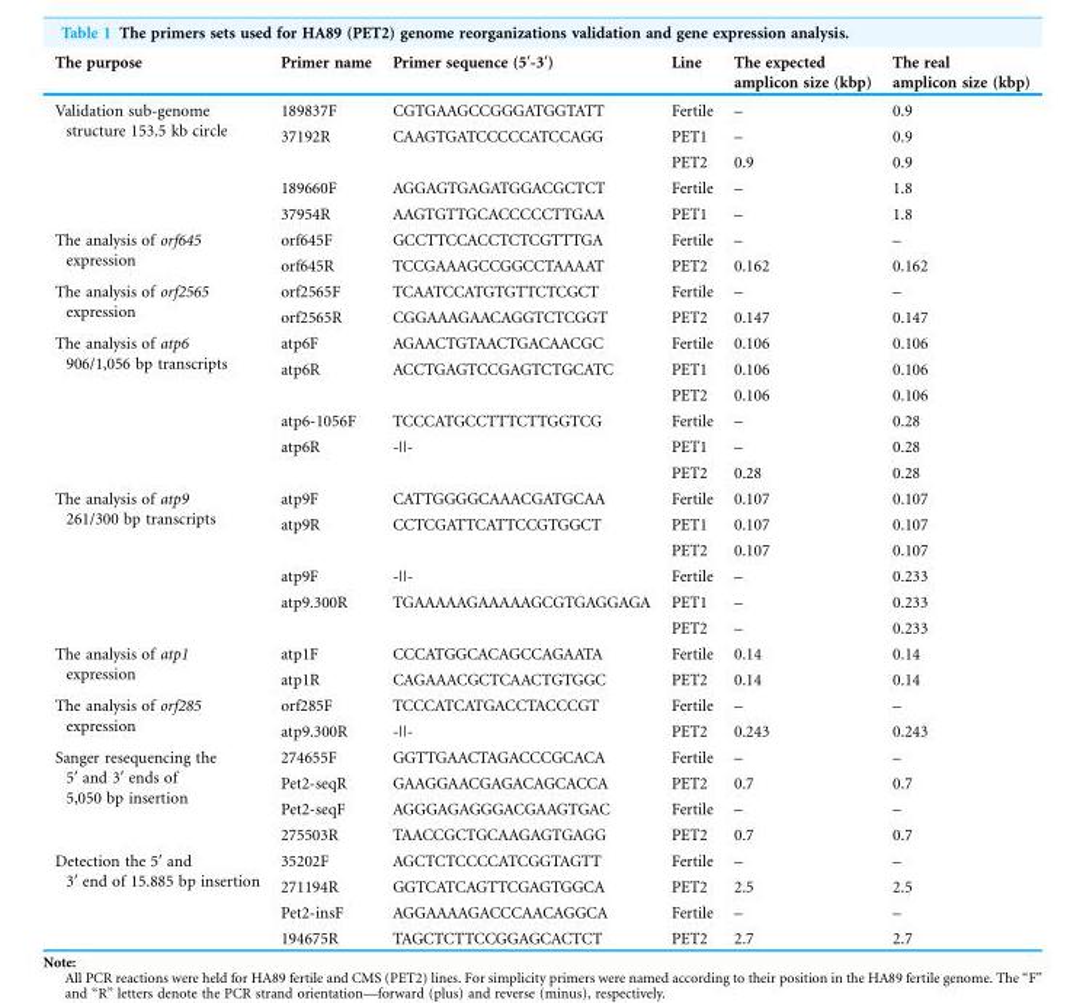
<table><thead><tr><td>The purpose</td><td>Primer name</td><td>Primer sequence (5′-3′)</td><td>Line</td><td>The expected amplicon size (kbp)</td><td>The real amplicon size (kbp)</td></tr></thead><tbody><tr><td rowspan="5">Validation sub-genome structure 153.5 kb circle</td><td>189837F</td><td>CGTGAAGCCGGGATGGTATT</td><td>Fertile</td><td>–</td><td>0.9</td></tr><tr><td>37192R</td><td>CAAGTGATCCCCCATCCAGG</td><td>PET1</td><td>–</td><td>0.9</td></tr><tr><td></td><td></td><td>PET2</td><td>0.9</td><td>0.9</td></tr><tr><td>189660F</td><td>AGGAGTGAGATGGACGCTCT</td><td>Fertile</td><td>–</td><td>1.8</td></tr><tr><td>37954R</td><td>AAGTGTTGCACCCCCTTGAA</td><td>PET1</td><td>–</td><td>1.8</td></tr><tr><td rowspan="2">The analysis of orf645 expression</td><td>orf645F</td><td>GCCTTCCACCTCTCGTTTGA</td><td>Fertile</td><td>–</td><td>–</td></tr><tr><td>orf645R</td><td>TCCGAAAGCCGGCCTAAAAT</td><td>PET2</td><td>0.162</td><td>0.162</td></tr><tr><td rowspan="2">The analysis of orf2565 expression</td><td>orf2565F</td><td>TCAATCCATGTGTTCTCGCT</td><td>Fertile</td><td>–</td><td>–</td></tr><tr><td>orf2565R</td><td>CGGAAAGAACAGGTCTCGGT</td><td>PET2</td><td>0.147</td><td>0.147</td></tr><tr><td rowspan="6">The analysis of atp6 906/1,056 bp transcripts</td><td>atp6F</td><td>AGAACTGTAACTGACAACGC</td><td>Fertile</td><td>0.106</td><td>0.106</td></tr><tr><td>atp6R</td><td>ACCTGAGTCCGAGTCTGCATC</td><td>PET1</td><td>0.106</td><td>0.106</td></tr><tr><td></td><td></td><td>PET2</td><td>0.106</td><td>0.106</td></tr><tr><td>atp6-1056F</td><td>TCCCATGCCTTTCTTGGTCG</td><td>Fertile</td><td>–</td><td>0.28</td></tr><tr><td>atp6R</td><td>-||-</td><td>PET1</td><td>–</td><td>0.28</td></tr><tr><td></td><td></td><td>PET2</td><td>0.28</td><td>0.28</td></tr><tr><td rowspan="6">The analysis of atp9 261/300 bp transcripts</td><td>atp9F</td><td>CATTGGGGCAAACGATGCAA</td><td>Fertile</td><td>0.107</td><td>0.107</td></tr><tr><td>atp9R</td><td>CCTCGATTCATTCCGTGGCT</td><td>PET1</td><td>0.107</td><td>0.107</td></tr><tr><td></td><td></td><td>PET2</td><td>0.107</td><td>0.107</td></tr><tr><td>atp9F</td><td>-||-</td><td>Fertile</td><td>–</td><td>0.233</td></tr><tr><td>atp9.300R</td><td>TGAAAAAGAAAAAGCGTGAGGAGA</td><td>PET1</td><td>–</td><td>0.233</td></tr><tr><td></td><td></td><td>PET2</td><td>–</td><td>0.233</td></tr><tr><td rowspan="2">The analysis of atp1 expression</td><td>atp1F</td><td>CCCATGGCACAGCCAGAATA</td><td>Fertile</td><td>0.14</td><td>0.14</td></tr><tr><td>atp1R</td><td>CAGAAACGCTCAACTGTGGC</td><td>PET2</td><td>0.14</td><td>0.14</td></tr><tr><td rowspan="2">The analysis of orf285 expression</td><td>orf285F</td><td>TCCCATCATGACCTACCCGT</td><td>Fertile</td><td>–</td><td>–</td></tr><tr><td>atp9.300R</td><td>-||-</td><td>PET2</td><td>0.243</td><td>0.243</td></tr><tr><td rowspan="4">Sanger resequencing the 5′ and 3′ ends of 5,050 bp insertion</td><td>274655F</td><td>GGTTGAACTAGACCCGCACA</td><td>Fertile</td><td>–</td><td>–</td></tr><tr><td>Pet2-seqR</td><td>GAAGGAACGAGACAGCACCA</td><td>PET2</td><td>0.7</td><td>0.7</td></tr><tr><td>Pet2-seqF</td><td>AGGGAGAGGGACGAAGTGAC</td><td>Fertile</td><td>–</td><td>–</td></tr><tr><td>275503R</td><td>TAACCGCTGCAAGAGTGAGG</td><td>PET2</td><td>0.7</td><td>0.7</td></tr><tr><td rowspan="4">Detection the 5′ and 3′ end of 15.885 bp insertion</td><td>35202F</td><td>AGCTCTCCCCATCGGTAGTT</td><td>Fertile</td><td>–</td><td>–</td></tr><tr><td>271194R</td><td>GGTCATCAGTTCGAGTGGCA</td><td>PET2</td><td>2.5</td><td>2.5</td></tr><tr><td>Pet2-insF</td><td>AGGAAAAGACCCAACAGGCA</td><td>Fertile</td><td>–</td><td>–</td></tr><tr><td>194675R</td><td>TAGCTCTTCCGGAGCACTCT</td><td>PET2</td><td>2.7</td><td>2.7</td></tr></tbody></table>